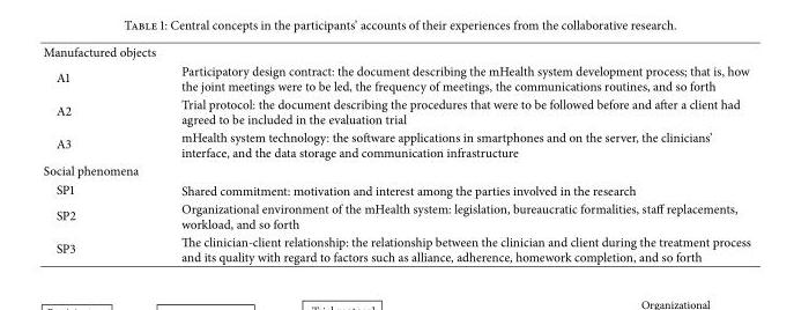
<table><tbody><tr><td colspan="2">Manufactured objects</td></tr><tr><td>A1</td><td>Participatory design contract: the document describing the mHealth system development process; that is, how the joint meetings were to be led, the frequency of meetings, the communications routines, and so forth</td></tr><tr><td>A2</td><td>Trial protocol: the document describing the procedures that were to be followed before and after a client had agreed to be included in the evaluation trial</td></tr><tr><td>A3</td><td>mHealth system technology: the software applications in smartphones and on the server, the clinicians’ interface, and the data storage and communication infrastructure</td></tr><tr><td colspan="2">Social phenomena</td></tr><tr><td>SP1</td><td>Shared commitment: motivation and interest among the parties involved in the research</td></tr><tr><td>SP2</td><td>Organizational environment of the mHealth system: legislation, bureaucratic formalities, staff replacements, workload, and so forth</td></tr><tr><td>SP3</td><td>The clinician-client relationship: the relationship between the clinician and client during the treatment process and its quality with regard to factors such as alliance, adherence, homework completion, and so forth</td></tr></tbody></table>